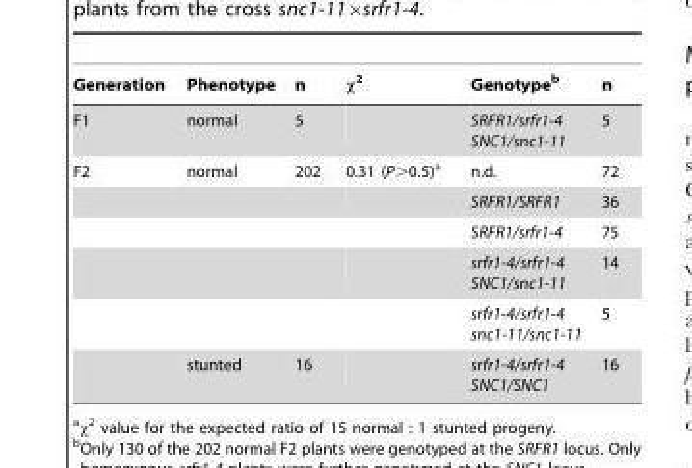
<table><thead><tr><td>Generation</td><td>Phenotype</td><td>n</td><td>χ<sup>2</sup></td><td>Genotype<sup>b</sup></td><td>n</td></tr></thead><tbody><tr><td>F1</td><td>normal</td><td>5</td><td></td><td>SRFR1/srfr1-4 SNC1/snc1-11</td><td>5</td></tr><tr><td rowspan="6">F2</td><td>normal</td><td>202</td><td>0.31 (P&gt;0.5)<sup>a</sup></td><td>n.d.</td><td>72</td></tr><tr><td></td><td></td><td></td><td>SRFR1/SRFR1</td><td>36</td></tr><tr><td></td><td></td><td></td><td>SRFR1/srfr1-4</td><td>75</td></tr><tr><td></td><td></td><td></td><td>srfr1-4/srfr1-4 SNC1/snc1-11</td><td>14</td></tr><tr><td></td><td></td><td></td><td>srfr1-4/srfr1-4 snc1-11/snc1-11</td><td>5</td></tr><tr><td>stunted</td><td>16</td><td></td><td>srfr1-4/srfr1-4 SNC1/SNC1</td><td>16</td></tr></tbody></table>